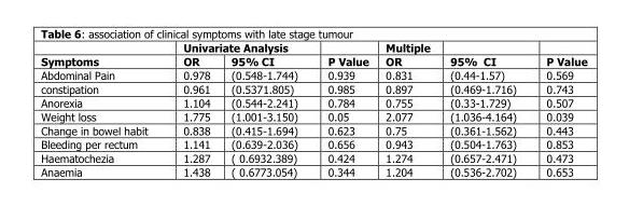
<table><thead><tr><td rowspan="2">Symptoms</td><td colspan="2">Univariate Analysis</td><td rowspan="2">P Value</td><td rowspan="2">Multiple OR</td><td rowspan="2">95% CI</td><td rowspan="2">P Value</td></tr><tr><td>OR</td><td>95% CI</td></tr></thead><tbody><tr><td>Abdominal Pain</td><td>0.978</td><td>(0.548-1.744)</td><td>0.939</td><td>0.831</td><td>(0.44-1.57)</td><td>0.569</td></tr><tr><td>constipation</td><td>0.961</td><td>(0.5371.805)</td><td>0.985</td><td>0.897</td><td>(0.469-1.716)</td><td>0.743</td></tr><tr><td>Anorexia</td><td>1.104</td><td>(0.544-2.241)</td><td>0.784</td><td>0.755</td><td>(0.33-1.729)</td><td>0.507</td></tr><tr><td>Weight loss</td><td>1.775</td><td>(1.001-3.150)</td><td>0.05</td><td>2.077</td><td>(1.036-4.164)</td><td>0.039</td></tr><tr><td>Change in bowel habit</td><td>0.838</td><td>(0.415-1.694)</td><td>0.623</td><td>0.75</td><td>(0.361-1.562)</td><td>0.443</td></tr><tr><td>Bleeding per rectum</td><td>1.141</td><td>(0.639-2.036)</td><td>0.656</td><td>0.943</td><td>(0.504-1.763)</td><td>0.853</td></tr><tr><td>Haematochezia</td><td>1.287</td><td>( 0.6932.389)</td><td>0.424</td><td>1.274</td><td>(0.657-2.471)</td><td>0.473</td></tr><tr><td>Anaemia</td><td>1.438</td><td>( 0.6773.054)</td><td>0.344</td><td>1.204</td><td>(0.536-2.702)</td><td>0.653</td></tr></tbody></table>